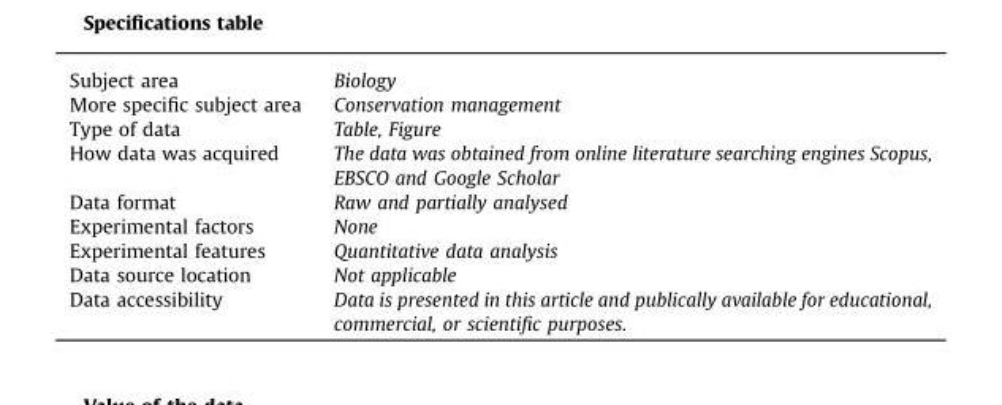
<table><thead><tr><td>Subject area</td><td>Biology</td></tr></thead><tbody><tr><td>More specific subject area</td><td>Conservation management</td></tr><tr><td>Type of data</td><td>Table, Figure</td></tr><tr><td>How data was acquired</td><td>The data was obtained from online literature searching engines Scopus, EBSCO and Google Scholar</td></tr><tr><td>Data format</td><td>Raw and partially analysed</td></tr><tr><td>Experimental factors</td><td>None</td></tr><tr><td>Experimental features</td><td>Quantitative data analysis</td></tr><tr><td>Data source location</td><td>Not applicable</td></tr><tr><td>Data accessibility</td><td>Data is presented in this article and publically available for educational, commercial, or scientific purposes.</td></tr></tbody></table>